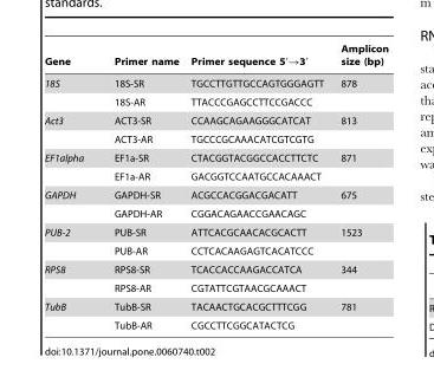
<table><thead><tr><td>Gene</td><td>Primer name</td><td>Primer sequence 5′→3′</td><td>Amplicon size (bp)</td></tr></thead><tbody><tr><td rowspan="2">18S</td><td>18S-SR</td><td>TGCCTTGTTGCCAGTGGGAGTT</td><td>878</td></tr><tr><td>18S-AR</td><td>TTACCCGAGCCTTCCGACCC</td><td></td></tr><tr><td rowspan="2">Act3</td><td>ACT3-SR</td><td>CCAAGCAGAAGGGCATCAT</td><td>813</td></tr><tr><td>ACT3-AR</td><td>TGCCCGCAAACATCGTCGTG</td><td></td></tr><tr><td rowspan="2">EF1alpha</td><td>EF1a-SR</td><td>CTACGGTACGGCCACCTTCTC</td><td>871</td></tr><tr><td>EF1a-AR</td><td>GACGGTCCAATGCCACAAACT</td><td></td></tr><tr><td rowspan="2">GAPDH</td><td>GAPDH-SR</td><td>ACGCCACGGACGACATT</td><td>675</td></tr><tr><td>GAPDH-AR</td><td>CGGACAGAACCGAACAGC</td><td></td></tr><tr><td rowspan="2">PUB-2</td><td>PUB-SR</td><td>ATTCACGCAACACGCACTT</td><td>1523</td></tr><tr><td>PUB-AR</td><td>CCTCACAAGAGTCACATCCC</td><td></td></tr><tr><td rowspan="2">RPS8</td><td>RPS8-SR</td><td>TCACCACCAAGACCATCA</td><td>344</td></tr><tr><td>RPS8-AR</td><td>CGTATTCGTAACGCAAACT</td><td></td></tr><tr><td rowspan="2">TubB</td><td>TubB-SR</td><td>TACAACTGCACGCTTTCGG</td><td>781</td></tr><tr><td>TubB-AR</td><td>CGCCTTCGGCATACTCG</td><td></td></tr></tbody></table>